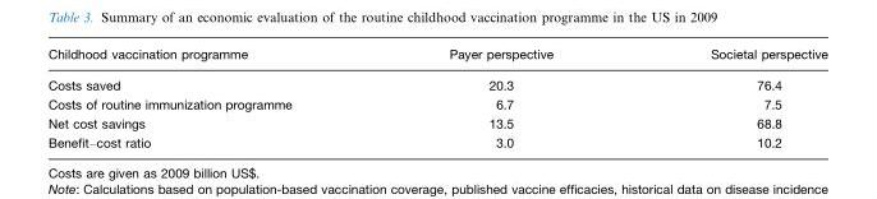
<table><thead><tr><td>Childhood vaccination programme</td><td>Payer perspective</td><td>Societal perspective</td></tr></thead><tbody><tr><td>Costs saved</td><td>20.3</td><td>76.4</td></tr><tr><td>Costs of routine immunization programme</td><td>6.7</td><td>7.5</td></tr><tr><td>Net cost savings</td><td>13.5</td><td>68.8</td></tr><tr><td>Benefit–cost ratio</td><td>3.0</td><td>10.2</td></tr></tbody></table>